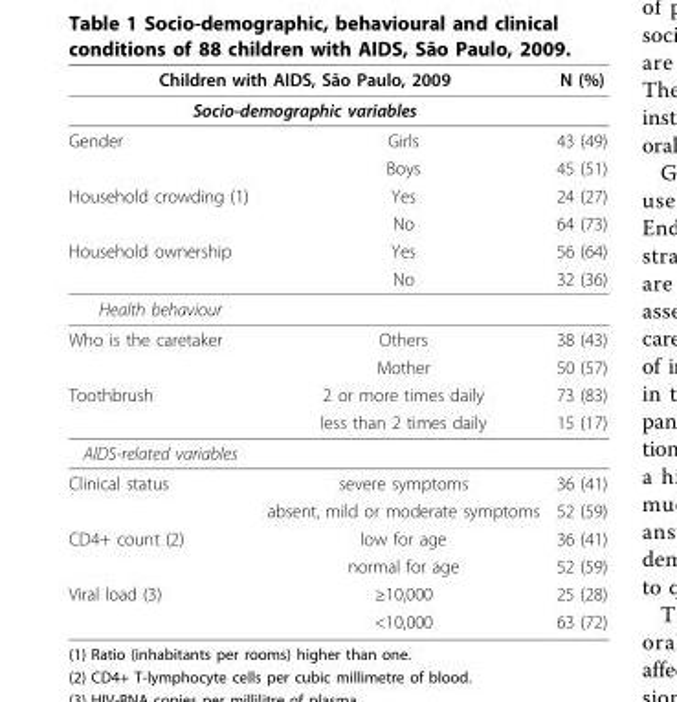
<table><thead><tr><td rowspan="2" colspan="2">Children with AIDS, São Paulo, 2009 Socio-demographic variables</td><td rowspan="3">N (%) 43 (49)</td></tr><tr></tr><tr><td>Gender</td><td>Girls</td></tr></thead><tbody><tr><td></td><td>Boys</td><td>45 (51)</td></tr><tr><td rowspan="2">Household crowding (1)</td><td>Yes</td><td>24 (27)</td></tr><tr><td>No</td><td>64 (73)</td></tr><tr><td rowspan="2">Household ownership</td><td>Yes</td><td>56 (64)</td></tr><tr><td>No</td><td>32 (36)</td></tr><tr><td colspan="3">Health behaviour</td></tr><tr><td rowspan="2">Who is the caretaker</td><td>Others</td><td>38 (43)</td></tr><tr><td>Mother</td><td>50 (57)</td></tr><tr><td rowspan="2">Toothbrush</td><td>2 or more times daily</td><td>73 (83)</td></tr><tr><td>less than 2 times daily</td><td>15 (17)</td></tr><tr><td colspan="3">AIDS-related variables</td></tr><tr><td rowspan="2">Clinical status</td><td>severe symptoms</td><td>36 (41)</td></tr><tr><td>absent, mild or moderate symptoms</td><td>52 (59)</td></tr><tr><td rowspan="2">CD4+ count (2)</td><td>low for age</td><td>36 (41)</td></tr><tr><td>normal for age</td><td>52 (59)</td></tr><tr><td rowspan="2">Viral load (3)</td><td>≥10,000</td><td>25 (28)</td></tr><tr><td>&lt;10,000</td><td>63 (72)</td></tr></tbody></table>